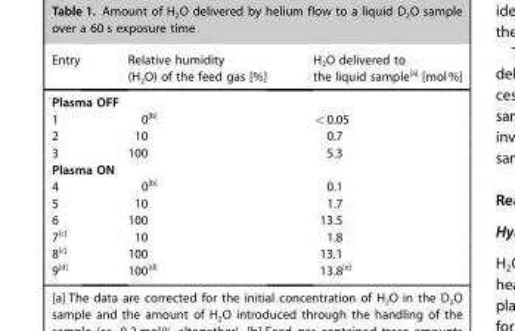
<table><thead><tr><td>Entry</td><td>Relative humidity (H<sub>2</sub>O) of the feed gas [%]</td><td>H<sub>2</sub>O delivered to the liquid sample<sup>[a]</sup> [mol%]</td></tr></thead><tbody><tr><td colspan="3">Plasma OFF</td></tr><tr><td>1</td><td>0<sup>[b]</sup></td><td>&lt;0.05</td></tr><tr><td>2</td><td>10</td><td>0.7</td></tr><tr><td>3</td><td>100</td><td>5.3</td></tr><tr><td colspan="3">Plasma ON</td></tr><tr><td>4</td><td>0<sup>[b]</sup></td><td>0.1</td></tr><tr><td>5</td><td>10</td><td>1.7</td></tr><tr><td>6</td><td>100</td><td>13.5</td></tr><tr><td>7<sup>[c]</sup></td><td>10</td><td>1.8</td></tr><tr><td>8<sup>[c]</sup></td><td>100</td><td>13.1</td></tr><tr><td>9<sup>[d]</sup></td><td>100<sup>[d]</sup></td><td>13.8<sup>[e]</sup></td></tr></tbody></table>